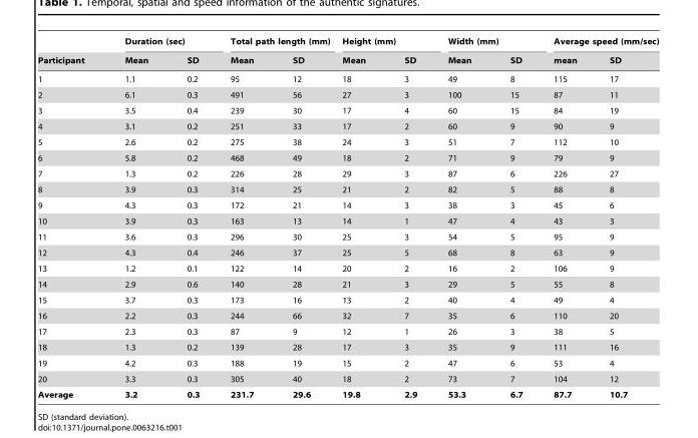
<table><thead><tr><td rowspan="2">Participant</td><td colspan="2">Duration (sec)</td><td colspan="2">Total path length (mm)</td><td colspan="2">Height (mm)</td><td colspan="2">Width (mm)</td><td colspan="2">Average speed (mm/sec)</td></tr><tr><td>Mean</td><td>SD</td><td>Mean</td><td>SD</td><td>Mean</td><td>SD</td><td>Mean</td><td>SD</td><td>mean</td><td>SD</td></tr></thead><tbody><tr><td>1</td><td>1.1</td><td>0.2</td><td>95</td><td>12</td><td>18</td><td>3</td><td>49</td><td>8</td><td>115</td><td>17</td></tr><tr><td>2</td><td>6.1</td><td>0.3</td><td>491</td><td>56</td><td>27</td><td>3</td><td>100</td><td>15</td><td>87</td><td>11</td></tr><tr><td>3</td><td>3.5</td><td>0.4</td><td>239</td><td>30</td><td>17</td><td>4</td><td>60</td><td>15</td><td>84</td><td>19</td></tr><tr><td>4</td><td>3.1</td><td>0.2</td><td>251</td><td>33</td><td>17</td><td>2</td><td>60</td><td>9</td><td>90</td><td>9</td></tr><tr><td>5</td><td>2.6</td><td>0.2</td><td>275</td><td>38</td><td>24</td><td>3</td><td>51</td><td>7</td><td>112</td><td>10</td></tr><tr><td>6</td><td>5.8</td><td>0.2</td><td>468</td><td>49</td><td>18</td><td>2</td><td>71</td><td>9</td><td>79</td><td>9</td></tr><tr><td>7</td><td>1.3</td><td>0.2</td><td>226</td><td>28</td><td>29</td><td>3</td><td>87</td><td>6</td><td>226</td><td>27</td></tr><tr><td>8</td><td>3.9</td><td>0.3</td><td>314</td><td>25</td><td>21</td><td>2</td><td>82</td><td>5</td><td>88</td><td>8</td></tr><tr><td>9</td><td>4.3</td><td>0.3</td><td>172</td><td>21</td><td>14</td><td>3</td><td>38</td><td>3</td><td>45</td><td>6</td></tr><tr><td>10</td><td>3.9</td><td>0.3</td><td>163</td><td>13</td><td>14</td><td>1</td><td>47</td><td>4</td><td>43</td><td>3</td></tr><tr><td>11</td><td>3.6</td><td>0.3</td><td>296</td><td>30</td><td>25</td><td>3</td><td>54</td><td>5</td><td>95</td><td>9</td></tr><tr><td>12</td><td>4.3</td><td>0.4</td><td>246</td><td>37</td><td>25</td><td>5</td><td>68</td><td>8</td><td>63</td><td>9</td></tr><tr><td>13</td><td>1.2</td><td>0.1</td><td>122</td><td>14</td><td>20</td><td>2</td><td>16</td><td>2</td><td>106</td><td>9</td></tr><tr><td>14</td><td>2.9</td><td>0.6</td><td>140</td><td>28</td><td>21</td><td>3</td><td>29</td><td>5</td><td>55</td><td>8</td></tr><tr><td>15</td><td>3.7</td><td>0.3</td><td>173</td><td>16</td><td>13</td><td>2</td><td>40</td><td>4</td><td>49</td><td>4</td></tr><tr><td>16</td><td>2.2</td><td>0.3</td><td>244</td><td>66</td><td>32</td><td>7</td><td>35</td><td>6</td><td>110</td><td>20</td></tr><tr><td>17</td><td>2.3</td><td>0.3</td><td>87</td><td>9</td><td>12</td><td>1</td><td>26</td><td>3</td><td>38</td><td>5</td></tr><tr><td>18</td><td>1.3</td><td>0.2</td><td>139</td><td>28</td><td>17</td><td>3</td><td>35</td><td>9</td><td>111</td><td>16</td></tr><tr><td>19</td><td>4.2</td><td>0.3</td><td>188</td><td>19</td><td>15</td><td>2</td><td>47</td><td>6</td><td>53</td><td>4</td></tr><tr><td>20</td><td>3.3</td><td>0.3</td><td>305</td><td>40</td><td>18</td><td>2</td><td>73</td><td>7</td><td>104</td><td>12</td></tr><tr><td>Average</td><td>3.2</td><td>0.3</td><td>231.7</td><td>29.6</td><td>19.8</td><td>2.9</td><td>53.3</td><td>6.7</td><td>87.7</td><td>10.7</td></tr></tbody></table>